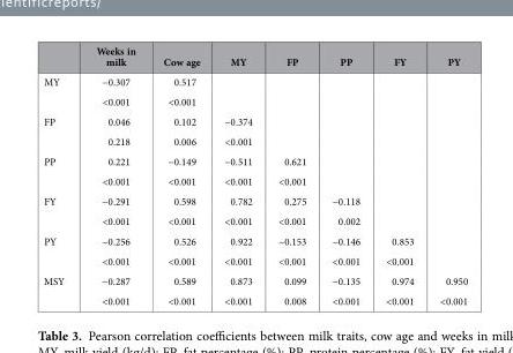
<table><thead><tr><td></td><td>Weeks in milk</td><td>Cow age</td><td>MY</td><td>FP</td><td>PP</td><td>FY</td><td>PY</td></tr></thead><tbody><tr><td rowspan="2">MY</td><td>−0.307</td><td>0.517</td><td></td><td></td><td></td><td></td><td></td></tr><tr><td>&lt;0.001</td><td>&lt;0.001</td><td></td><td></td><td></td><td></td><td></td></tr><tr><td rowspan="2">FP</td><td>0.046</td><td>0.102</td><td>−0.374</td><td></td><td></td><td></td><td></td></tr><tr><td>0.218</td><td>0.006</td><td>&lt;0.001</td><td></td><td></td><td></td><td></td></tr><tr><td rowspan="2">PP</td><td>0.221</td><td>−0.149</td><td>−0.511</td><td>0.621</td><td></td><td></td><td></td></tr><tr><td>&lt;0.001</td><td>&lt;0.001</td><td>&lt;0.001</td><td>&lt;0.001</td><td></td><td></td><td></td></tr><tr><td rowspan="2">FY</td><td>−0.291</td><td>0.598</td><td>0.782</td><td>0.275</td><td>−0.118</td><td></td><td></td></tr><tr><td>&lt;0.001</td><td>&lt;0.001</td><td>&lt;0.001</td><td>&lt;0.001</td><td>0.002</td><td></td><td></td></tr><tr><td rowspan="2">PY</td><td>−0.256</td><td>0.526</td><td>0.922</td><td>−0.153</td><td>−0.146</td><td>0.853</td><td></td></tr><tr><td>&lt;0.001</td><td>&lt;0.001</td><td>&lt;0.001</td><td>&lt;0.001</td><td>&lt;0.001</td><td>&lt;0.001</td><td></td></tr><tr><td rowspan="2">MSY</td><td>−0.287</td><td>0.589</td><td>0.873</td><td>0.099</td><td>−0.135</td><td>0.974</td><td>0.950</td></tr><tr><td>&lt;0.001</td><td>&lt;0.001</td><td>&lt;0.001</td><td>0.008</td><td>&lt;0.001</td><td>&lt;0.001</td><td>&lt;0.001</td></tr></tbody></table>